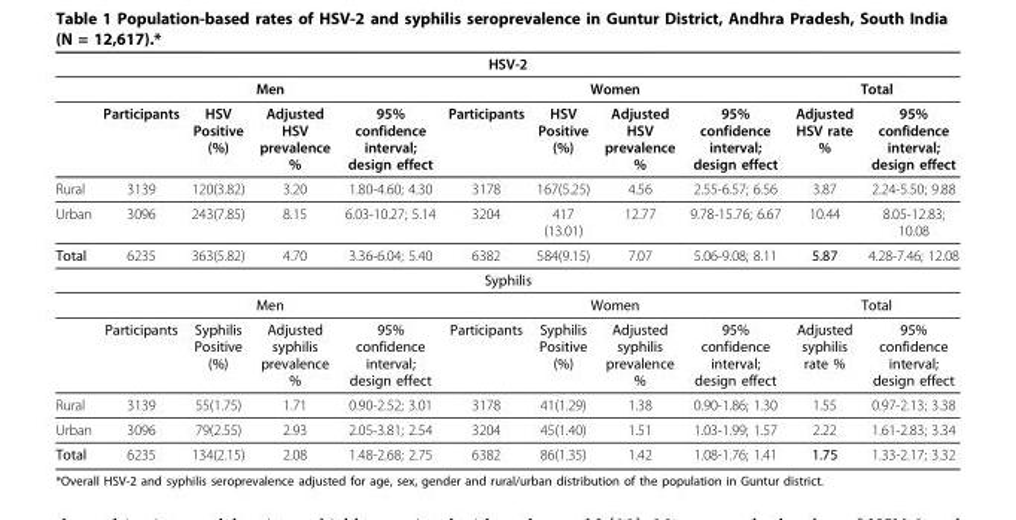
<table><thead><tr><td colspan="11">HSV-2</td></tr><tr><td rowspan="2"></td><td colspan="4">Men</td><td colspan="4">Women</td><td colspan="2">Total</td></tr><tr><td>Participants</td><td>HSV Positive (%)</td><td>Adjusted HSV prevalence %</td><td>95% confidence interval; design effect</td><td>Participants</td><td>HSV Positive (%)</td><td>Adjusted HSV prevalence %</td><td>95% confidence interval; design effect</td><td>Adjusted HSV rate %</td><td>95% confidence interval; design effect</td></tr></thead><tbody><tr><td>Rural</td><td>3139</td><td>120(3.82)</td><td>3.20</td><td>1.80-4.60; 4.30</td><td>3178</td><td>167(5.25)</td><td>4.56</td><td>2.55-6.57; 6.56</td><td>3.87</td><td>2.24-5.50; 9.88</td></tr><tr><td>Urban</td><td>3096</td><td>243(7.85)</td><td>8.15</td><td>6.03-10.27; 5.14</td><td>3204</td><td>417 (13.01)</td><td>12.77</td><td>9.78-15.76; 6.67</td><td>10.44</td><td>8.05-12.83; 10.08</td></tr><tr><td>Total</td><td>6235</td><td>363(5.82)</td><td>4.70</td><td>3.36-6.04; 5.40</td><td>6382</td><td>584(9.15)</td><td>7.07</td><td>5.06-9.08; 8.11</td><td>5.87</td><td>4.28-7.46; 12.08</td></tr><tr><td colspan="11">Syphilis</td></tr><tr><td></td><td colspan="4">Men</td><td colspan="4">Women</td><td colspan="2">Total</td></tr><tr><td></td><td>Participants</td><td>Syphilis Positive (%)</td><td>Adjusted syphilis prevalence %</td><td>95% confidence interval; design effect</td><td>Participants</td><td>Syphilis Positive (%)</td><td>Adjusted syphilis prevalence %</td><td>95% confidence interval; design effect</td><td>Adjusted syphilis rate %</td><td>95% confidence interval; design effect</td></tr><tr><td>Rural</td><td>3139</td><td>55(1.75)</td><td>1.71</td><td>0.90-2.52; 3.01</td><td>3178</td><td>41(1.29)</td><td>1.38</td><td>0.90-1.86; 1.30</td><td>1.55</td><td>0.97-2.13; 3.38</td></tr><tr><td>Urban</td><td>3096</td><td>79(2.55)</td><td>2.93</td><td>2.05-3.81; 2.54</td><td>3204</td><td>45(1.40)</td><td>1.51</td><td>1.03-1.99; 1.57</td><td>2.22</td><td>1.61-2.83; 3.34</td></tr><tr><td>Total</td><td>6235</td><td>134(2.15)</td><td>2.08</td><td>1.48-2.68; 2.75</td><td>6382</td><td>86(1.35)</td><td>1.42</td><td>1.08-1.76; 1.41</td><td>1.75</td><td>1.33-2.17; 3.32</td></tr></tbody></table>